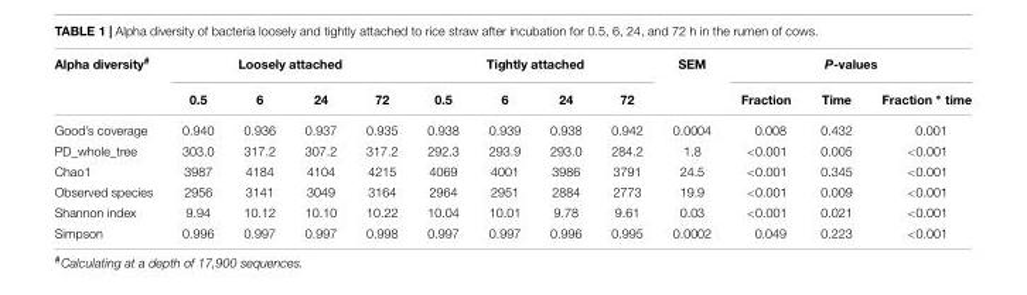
<table><thead><tr><td rowspan="2">Alpha diversity<sup>#</sup></td><td colspan="4">Loosely attached</td><td colspan="4">Tightly attached</td><td rowspan="2">SEM</td><td colspan="3">P-values</td></tr><tr><td>0.5</td><td>6</td><td>24</td><td>72</td><td>0.5</td><td>6</td><td>24</td><td>72</td><td>Fraction</td><td>Time</td><td>Fraction ∗ time</td></tr></thead><tbody><tr><td>Good’s coverage</td><td>0.940</td><td>0.936</td><td>0.937</td><td>0.935</td><td>0.938</td><td>0.939</td><td>0.938</td><td>0.942</td><td>0.0004</td><td>0.008</td><td>0.432</td><td>0.001</td></tr><tr><td>PD_whole_tree</td><td>303.0</td><td>317.2</td><td>307.2</td><td>317.2</td><td>292.3</td><td>293.9</td><td>293.0</td><td>284.2</td><td>1.8</td><td>&lt;0.001</td><td>0.005</td><td>&lt;0.001</td></tr><tr><td>Chao1</td><td>3987</td><td>4184</td><td>4104</td><td>4215</td><td>4069</td><td>4001</td><td>3986</td><td>3791</td><td>24.5</td><td>&lt;0.001</td><td>0.345</td><td>&lt;0.001</td></tr><tr><td>Observed species</td><td>2956</td><td>3141</td><td>3049</td><td>3164</td><td>2964</td><td>2951</td><td>2884</td><td>2773</td><td>19.9</td><td>&lt;0.001</td><td>0.009</td><td>&lt;0.001</td></tr><tr><td>Shannon index</td><td>9.94</td><td>10.12</td><td>10.10</td><td>10.22</td><td>10.04</td><td>10.01</td><td>9.78</td><td>9.61</td><td>0.03</td><td>&lt;0.001</td><td>0.021</td><td>&lt;0.001</td></tr><tr><td>Simpson</td><td>0.996</td><td>0.997</td><td>0.997</td><td>0.998</td><td>0.997</td><td>0.997</td><td>0.996</td><td>0.995</td><td>0.0002</td><td>0.049</td><td>0.223</td><td>&lt;0.001</td></tr></tbody></table>